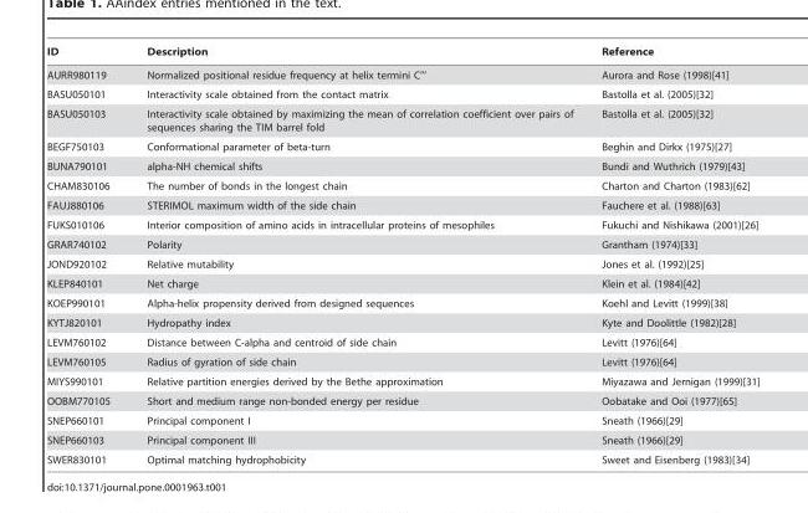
<table><thead><tr><td>ID</td><td>Description</td><td>Reference</td></tr></thead><tbody><tr><td>AURR980119</td><td>Normalized positional residue frequency at helix termini C″’</td><td>Aurora and Rose (1998)[41]</td></tr><tr><td>BASU050101</td><td>Interactivity scale obtained from the contact matrix</td><td>Bastolla et al. (2005)[32]</td></tr><tr><td>BASU050103</td><td>Interactivity scale obtained by maximizing the mean of correlation coefficient over pairs of sequences sharing the TIM barrel fold</td><td>Bastolla et al. (2005)[32]</td></tr><tr><td>BEGF750103</td><td>Conformational parameter of beta-turn</td><td>Beghin and Dirkx (1975)[27]</td></tr><tr><td>BUNA790101</td><td>alpha-NH chemical shifts</td><td>Bundi and Wuthrich (1979)[43]</td></tr><tr><td>CHAM830106</td><td>The number of bonds in the longest chain</td><td>Charton and Charton (1983)[62]</td></tr><tr><td>FAUJ880106</td><td>STERIMOL maximum width of the side chain</td><td>Fauchere et al. (1988)[63]</td></tr><tr><td>FUKS010106</td><td>Interior composition of amino acids in intracellular proteins of mesophiles</td><td>Fukuchi and Nishikawa (2001)[26]</td></tr><tr><td>GRAR740102</td><td>Polarity</td><td>Grantham (1974)[33]</td></tr><tr><td>JOND920102</td><td>Relative mutability</td><td>Jones et al. (1992)[25]</td></tr><tr><td>KLEP840101</td><td>Net charge</td><td>Klein et al. (1984)[42]</td></tr><tr><td>KOEP990101</td><td>Alpha-helix propensity derived from designed sequences</td><td>Koehl and Levitt (1999)[38]</td></tr><tr><td>KYTJ820101</td><td>Hydropathy index</td><td>Kyte and Doolittle (1982)[28]</td></tr><tr><td>LEVM760102</td><td>Distance between C-alpha and centroid of side chain</td><td>Levitt (1976)[64]</td></tr><tr><td>LEVM760105</td><td>Radius of gyration of side chain</td><td>Levitt (1976)[64]</td></tr><tr><td>MIYS990101</td><td>Relative partition energies derived by the Bethe approximation</td><td>Miyazawa and Jernigan (1999)[31]</td></tr><tr><td>OOBM770105</td><td>Short and medium range non-bonded energy per residue</td><td>Oobatake and Ooi (1977)[65]</td></tr><tr><td>SNEP660101</td><td>Principal component I</td><td>Sneath (1966)[29]</td></tr><tr><td>SNEP660103</td><td>Principal component III</td><td>Sneath (1966)[29]</td></tr><tr><td>SWER830101</td><td>Optimal matching hydrophobicity</td><td>Sweet and Eisenberg (1983)[34]</td></tr></tbody></table>